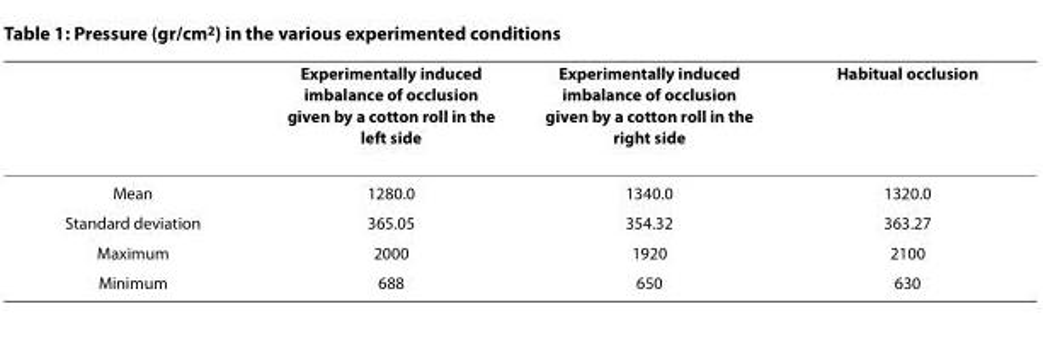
<table><thead><tr><td></td><td>Experimentally induced imbalance of occlusion given by a cotton roll in the left side</td><td>Experimentally induced imbalance of occlusion given by a cotton roll in the right side</td><td>Habitual occlusion</td></tr></thead><tbody><tr><td>Mean</td><td>1280.0</td><td>1340.0</td><td>1320.0</td></tr><tr><td>Standard deviation</td><td>365.05</td><td>354.32</td><td>363.27</td></tr><tr><td>Maximum</td><td>2000</td><td>1920</td><td>2100</td></tr><tr><td>Minimum</td><td>688</td><td>650</td><td>630</td></tr></tbody></table>